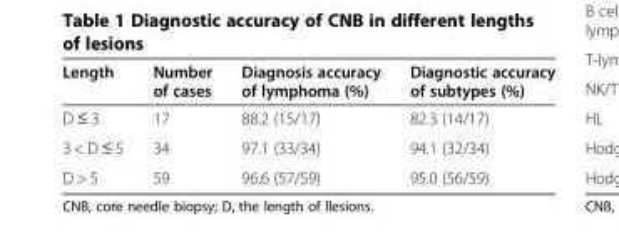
<table><thead><tr><td>Length</td><td>Number of cases</td><td>Diagnosis accuracy of lymphoma (%)</td><td>Diagnostic accuracy of subtypes (%)</td></tr></thead><tbody><tr><td>D ≤ 3</td><td>17</td><td>88.2 (15/17)</td><td>82.3 (14/17)</td></tr><tr><td>3 &lt; D ≤ 5</td><td>34</td><td>97.1 (33/34)</td><td>94.1 (32/34)</td></tr><tr><td>D &gt; 5</td><td>59</td><td>96.6 (57/59)</td><td>95.0 (56/59)</td></tr></tbody></table>